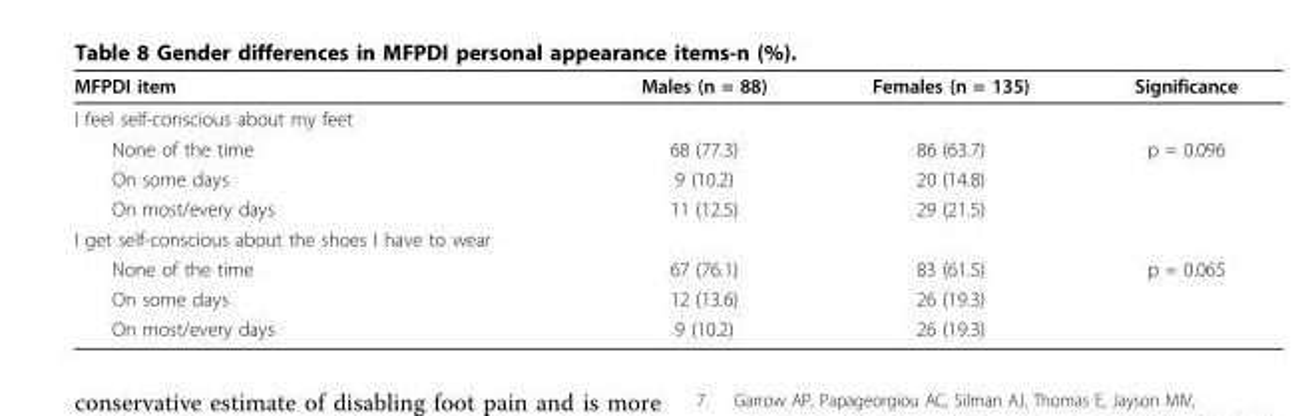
<table><thead><tr><td>MFPDI item</td><td>Males (n = 88)</td><td>Females (n = 135)</td><td>Significance</td></tr></thead><tbody><tr><td colspan="4">I feel self-conscious about my feet</td></tr><tr><td>None of the time</td><td>68 (77.3)</td><td>86 (63.7)</td><td>p = 0.096</td></tr><tr><td>On some days</td><td>9 (10.2)</td><td>20 (14.8)</td><td></td></tr><tr><td>On most/every days</td><td>11 (12.5)</td><td>29 (21.5)</td><td></td></tr><tr><td colspan="4">I get self-conscious about the shoes I have to wear</td></tr><tr><td>None of the time</td><td>67 (76.1)</td><td>83 (61.5)</td><td>p = 0.065</td></tr><tr><td>On some days</td><td>12 (13.6)</td><td>26 (19.3)</td><td></td></tr><tr><td>On most/every days</td><td>9 (10.2)</td><td>26 (19.3)</td><td></td></tr></tbody></table>